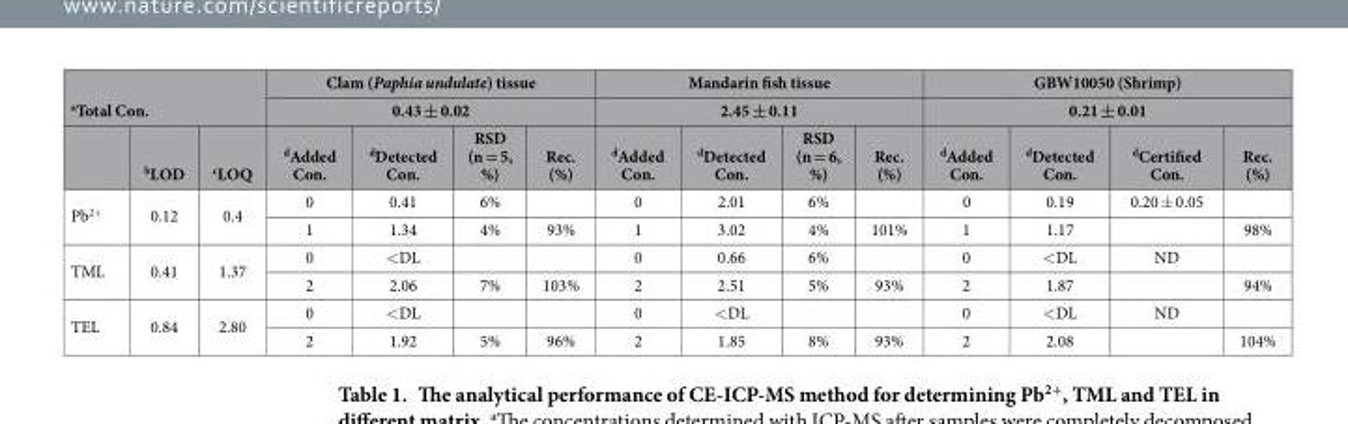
<table><thead><tr><td></td><td></td><td></td><td rowspan="2" colspan="4">Clam (Paphia undulate) tissue 0.43 ± 0.02</td><td rowspan="2" colspan="4">Mandarin fish tissue 2.45 ± 0.11</td><td rowspan="2" colspan="4">GBW10050 (Shrimp) 0.21 ± 0.01</td></tr><tr><td colspan="3">aTotal Con.</td></tr><tr><td></td><td>bLOD</td><td>cLOQ</td><td>dAdded Con.</td><td>dDetected Con.</td><td>RSD (n = 5, %)</td><td>Rec. (%)</td><td>dAdded Con.</td><td>dDetected Con.</td><td>RSD (n = 6, %)</td><td>Rec. (%)</td><td>dAdded Con.</td><td>dDetected Con.</td><td>dCertified Con.</td><td>Rec. (%)</td></tr></thead><tbody><tr><td rowspan="2">Pb<sup>2+</sup></td><td rowspan="2">0.12</td><td rowspan="2">0.4</td><td>0</td><td>0.41</td><td>6%</td><td></td><td>0</td><td>2.01</td><td>6%</td><td></td><td>0</td><td>0.19</td><td>0.20 ± 0.05</td><td></td></tr><tr><td>1</td><td>1.34</td><td>4%</td><td>93%</td><td>1</td><td>3.02</td><td>4%</td><td>101%</td><td>1</td><td>1.17</td><td></td><td>98%</td></tr><tr><td rowspan="2">TML</td><td rowspan="2">0.41</td><td rowspan="2">1.37</td><td>0</td><td>&lt; DL</td><td></td><td></td><td>0</td><td>0.66</td><td>6%</td><td></td><td>0</td><td>&lt; DL</td><td>ND</td><td></td></tr><tr><td>2</td><td>2.06</td><td>7%</td><td>103%</td><td>2</td><td>2.51</td><td>5%</td><td>93%</td><td>2</td><td>1.87</td><td></td><td>94%</td></tr><tr><td rowspan="2">TEL</td><td rowspan="2">0.84</td><td rowspan="2">2.80</td><td>0</td><td>&lt; DL</td><td></td><td></td><td>0</td><td>&lt; DL</td><td></td><td></td><td>0</td><td>&lt; DL</td><td>ND</td><td></td></tr><tr><td>2</td><td>1.92</td><td>5%</td><td>96%</td><td>2</td><td>1.85</td><td>8%</td><td>93%</td><td>2</td><td>2.08</td><td></td><td>104%</td></tr></tbody></table>